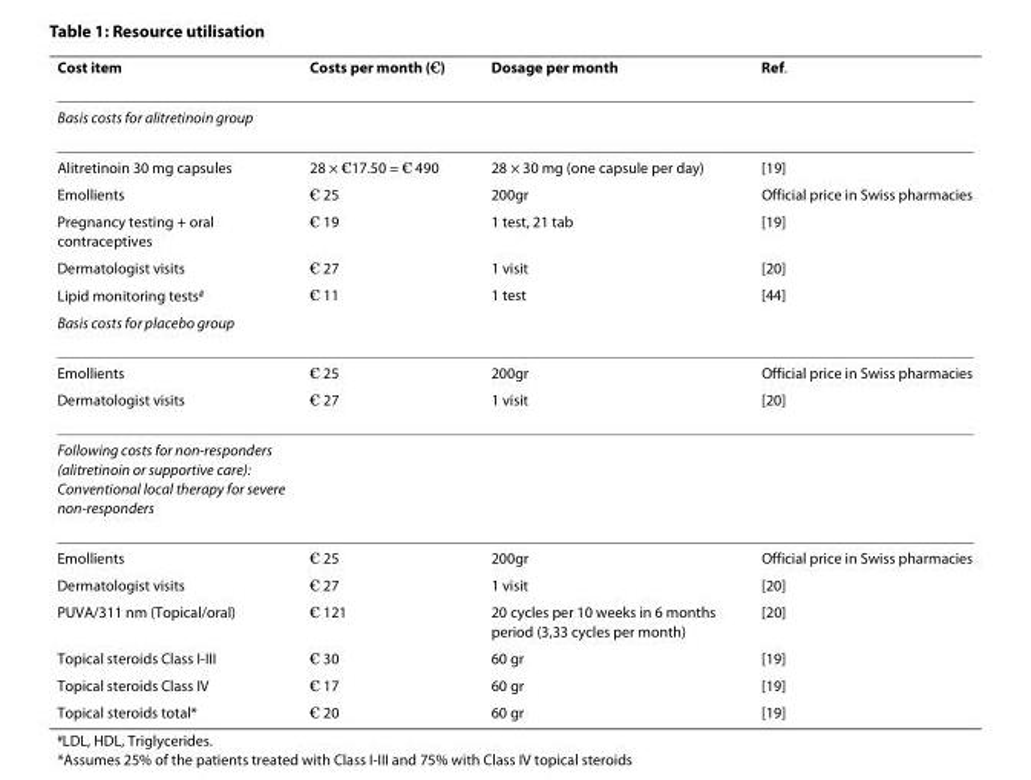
<table><thead><tr><td>Cost item</td><td>Costs per month (€)</td><td>Dosage per month</td><td>Ref.</td></tr></thead><tbody><tr><td colspan="4">Basis costs for alitretinoin group</td></tr><tr><td>Alitretinoin 30 mg capsules</td><td>28 × €17.50 = € 490</td><td>28 × 30 mg (one capsule per day)</td><td>[19]</td></tr><tr><td>Emollients</td><td>€ 25</td><td>200gr</td><td>Official price in Swiss pharmacies</td></tr><tr><td>Pregnancy testing + oral contraceptives</td><td>€ 19</td><td>1 test, 21 tab</td><td>[19]</td></tr><tr><td>Dermatologist visits</td><td>€ 27</td><td>1 visit</td><td>[20]</td></tr><tr><td>Lipid monitoring tests<sup>#</sup></td><td>€ 11</td><td>1 test</td><td>[44]</td></tr><tr><td colspan="4">Basis costs for placebo group</td></tr><tr><td>Emollients</td><td>€ 25</td><td>200gr</td><td>Official price in Swiss pharmacies</td></tr><tr><td>Dermatologist visits</td><td>€ 27</td><td>1 visit</td><td>[20]</td></tr><tr><td colspan="4">Following costs for non-responders (alitretinoin or supportive care): Conventional local therapy for severe non-responders</td></tr><tr><td>Emollients</td><td>€ 25</td><td>200gr</td><td>Official price in Swiss pharmacies</td></tr><tr><td>Dermatologist visits</td><td>€ 27</td><td>1 visit</td><td>[20]</td></tr><tr><td>PUVA/311 nm (Topical/oral)</td><td>€ 121</td><td>20 cycles per 10 weeks in 6 months period (3,33 cycles per month)</td><td>[20]</td></tr><tr><td>Topical steroids Class I-III</td><td>€ 30</td><td>60 gr</td><td>[19]</td></tr><tr><td>Topical steroids Class IV</td><td>€ 17</td><td>60 gr</td><td>[19]</td></tr><tr><td>Topical steroids total*</td><td>€ 20</td><td>60 gr</td><td>[19]</td></tr></tbody></table>